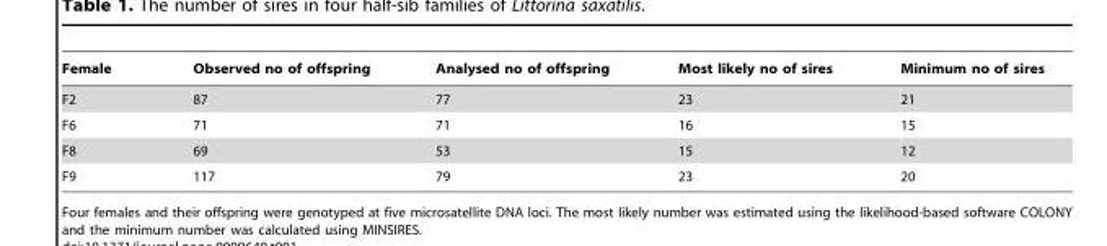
<table><thead><tr><td>Female</td><td>Observed no of offspring</td><td>Analysed no of offspring</td><td>Most likely no of sires</td><td>Minimum no of sires</td></tr></thead><tbody><tr><td>F2</td><td>87</td><td>77</td><td>23</td><td>21</td></tr><tr><td>F6</td><td>71</td><td>71</td><td>16</td><td>15</td></tr><tr><td>F8</td><td>69</td><td>53</td><td>15</td><td>12</td></tr><tr><td>F9</td><td>117</td><td>79</td><td>23</td><td>20</td></tr></tbody></table>